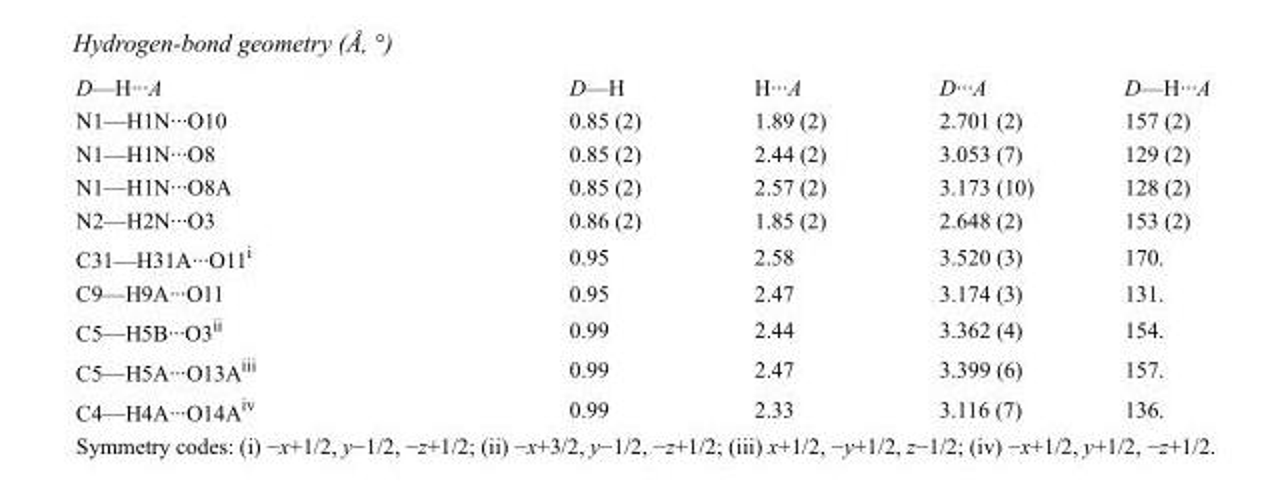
<table><tbody><tr><td>D—H···A</td><td>D—H</td><td>H···A</td><td>D···A</td><td>D—H···A</td></tr><tr><td>N1—H1N···O10</td><td>0.85 (2)</td><td>1.89 (2)</td><td>2.701 (2)</td><td>157 (2)</td></tr><tr><td>N1—H1N···O8</td><td>0.85 (2)</td><td>2.44 (2)</td><td>3.053 (7)</td><td>129 (2)</td></tr><tr><td>N1—H1N···O8A</td><td>0.85 (2)</td><td>2.57 (2)</td><td>3.173 (10)</td><td>128 (2)</td></tr><tr><td>N2—H2N···O3</td><td>0.86 (2)</td><td>1.85 (2)</td><td>2.648 (2)</td><td>153 (2)</td></tr><tr><td>C31—H31A···O11<sup>i</sup></td><td>0.95</td><td>2.58</td><td>3.520 (3)</td><td>170.</td></tr><tr><td>C9—H9A···O11</td><td>0.95</td><td>2.47</td><td>3.174 (3)</td><td>131.</td></tr><tr><td>C5—H5B···O3<sup>ii</sup></td><td>0.99</td><td>2.44</td><td>3.362 (4)</td><td>154.</td></tr><tr><td>C5—H5A···O13A<sup>iii</sup></td><td>0.99</td><td>2.47</td><td>3.399 (6)</td><td>157.</td></tr><tr><td>C4—H4A···O14A<sup>iv</sup></td><td>0.99</td><td>2.33</td><td>3.116 (7)</td><td>136.</td></tr></tbody></table>